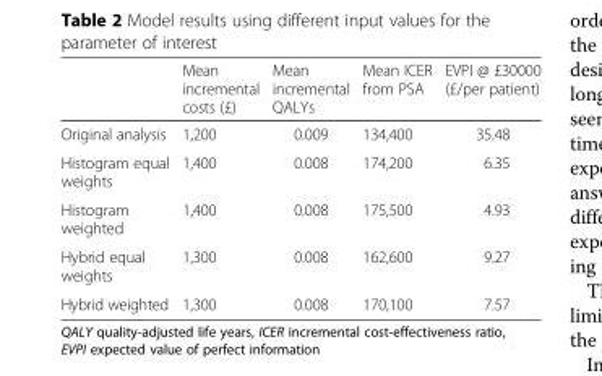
<table><thead><tr><td></td><td>Mean incremental costs (£)</td><td>Mean incremental QALYs</td><td>Mean ICER from PSA</td><td>EVPI @ £30000 (£/per patient)</td></tr></thead><tbody><tr><td>Original analysis</td><td>1,200</td><td>0.009</td><td>134,400</td><td>35.48</td></tr><tr><td>Histogram equal weights</td><td>1,400</td><td>0.008</td><td>174,200</td><td>6.35</td></tr><tr><td>Histogram weighted</td><td>1,400</td><td>0.008</td><td>175,500</td><td>4.93</td></tr><tr><td>Hybrid equal weights</td><td>1,300</td><td>0.008</td><td>162,600</td><td>9.27</td></tr><tr><td>Hybrid weighted</td><td>1,300</td><td>0.008</td><td>170,100</td><td>7.57</td></tr></tbody></table>